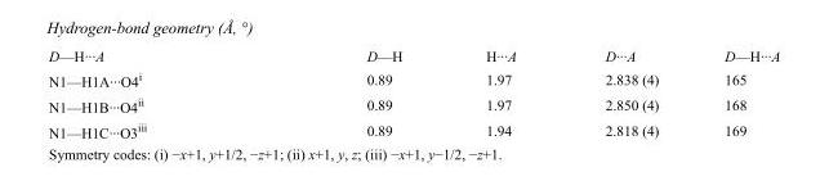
<table><tbody><tr><td>D—H···A</td><td>D—H</td><td>H···A</td><td>D···A</td><td>D—H···A</td></tr><tr><td>N1—H1A···O4<sup>i</sup></td><td>0.89</td><td>1.97</td><td>2.838 (4)</td><td>165</td></tr><tr><td>N1—H1B···O4<sup>ii</sup></td><td>0.89</td><td>1.97</td><td>2.850 (4)</td><td>168</td></tr><tr><td>N1—H1C···O3<sup>iii</sup></td><td>0.89</td><td>1.94</td><td>2.818 (4)</td><td>169</td></tr></tbody></table>